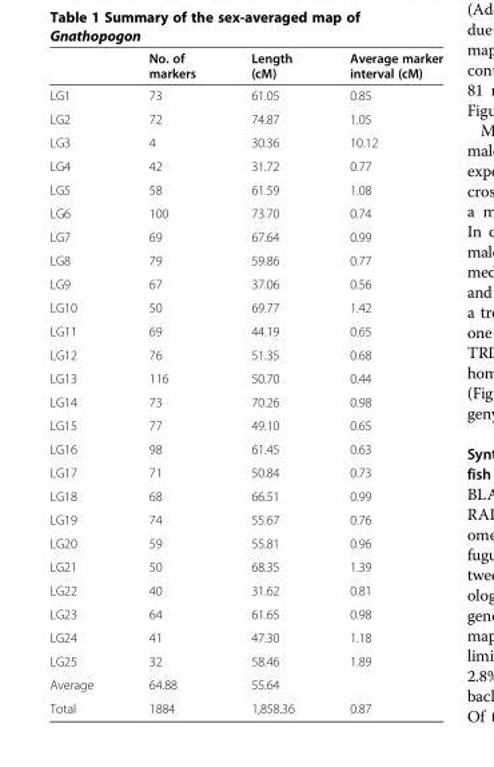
<table><thead><tr><td></td><td>No. of markers</td><td>Length (cM)</td><td>Average marker interval (cM)</td></tr></thead><tbody><tr><td>LG1</td><td>73</td><td>61.05</td><td>0.85</td></tr><tr><td>LG2</td><td>72</td><td>74.87</td><td>1.05</td></tr><tr><td>LG3</td><td>4</td><td>30.36</td><td>10.12</td></tr><tr><td>LG4</td><td>42</td><td>31.72</td><td>0.77</td></tr><tr><td>LG5</td><td>58</td><td>61.59</td><td>1.08</td></tr><tr><td>LG6</td><td>100</td><td>73.70</td><td>0.74</td></tr><tr><td>LG7</td><td>69</td><td>67.64</td><td>0.99</td></tr><tr><td>LG8</td><td>79</td><td>59.86</td><td>0.77</td></tr><tr><td>LG9</td><td>67</td><td>37.06</td><td>0.56</td></tr><tr><td>LG10</td><td>50</td><td>69.77</td><td>1.42</td></tr><tr><td>LG11</td><td>69</td><td>44.19</td><td>0.65</td></tr><tr><td>LG12</td><td>76</td><td>51.35</td><td>0.68</td></tr><tr><td>LG13</td><td>116</td><td>50.70</td><td>0.44</td></tr><tr><td>LG14</td><td>73</td><td>70.26</td><td>0.98</td></tr><tr><td>LG15</td><td>77</td><td>49.10</td><td>0.65</td></tr><tr><td>LG16</td><td>98</td><td>61.45</td><td>0.63</td></tr><tr><td>LG17</td><td>71</td><td>50.84</td><td>0.73</td></tr><tr><td>LG18</td><td>68</td><td>66.51</td><td>0.99</td></tr><tr><td>LG19</td><td>74</td><td>55.67</td><td>0.76</td></tr><tr><td>LG20</td><td>59</td><td>55.81</td><td>0.96</td></tr><tr><td>LG21</td><td>50</td><td>68.35</td><td>1.39</td></tr><tr><td>LG22</td><td>40</td><td>31.62</td><td>0.81</td></tr><tr><td>LG23</td><td>64</td><td>61.65</td><td>0.98</td></tr><tr><td>LG24</td><td>41</td><td>47.30</td><td>1.18</td></tr><tr><td>LG25</td><td>32</td><td>58.46</td><td>1.89</td></tr><tr><td>Average</td><td>64.88</td><td>55.64</td><td></td></tr><tr><td>Total</td><td>1884</td><td>1,858.36</td><td>0.87</td></tr></tbody></table>